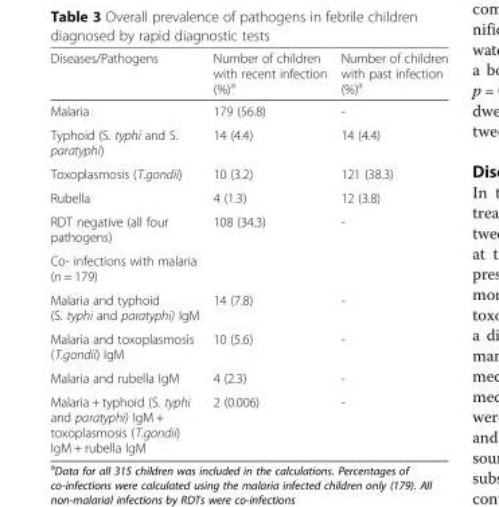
<table><thead><tr><td>Diseases/Pathogens</td><td>Number of children with recent infection (%)<sup>a</sup></td><td>Number of children with past infection (%)<sup>a</sup></td></tr></thead><tbody><tr><td>Malaria</td><td>179 (56.8)</td><td>-</td></tr><tr><td>Typhoid (S. typhi and S. paratyphi)</td><td>14 (4.4)</td><td>14 (4.4)</td></tr><tr><td>Toxoplasmosis (T.gondii)</td><td>10 (3.2)</td><td>121 (38.3)</td></tr><tr><td>Rubella</td><td>4 (1.3)</td><td>12 (3.8)</td></tr><tr><td>RDT negative (all four pathogens)</td><td>108 (34.3)</td><td>-</td></tr><tr><td colspan="3">Co- infections with malaria (n = 179)</td></tr><tr><td>Malaria and typhoid (S. typhi and paratyphi) IgM</td><td>14 (7.8)</td><td>-</td></tr><tr><td>Malaria and toxoplasmosis (T.gondii) IgM</td><td>10 (5.6)</td><td>-</td></tr><tr><td>Malaria and rubella IgM</td><td>4 (2.3)</td><td>-</td></tr><tr><td>Malaria + typhoid (S. typhi and paratyphi) IgM + toxoplasmosis (T.gondii) IgM + rubella IgM</td><td>2 (0.006)</td><td>-</td></tr></tbody></table>